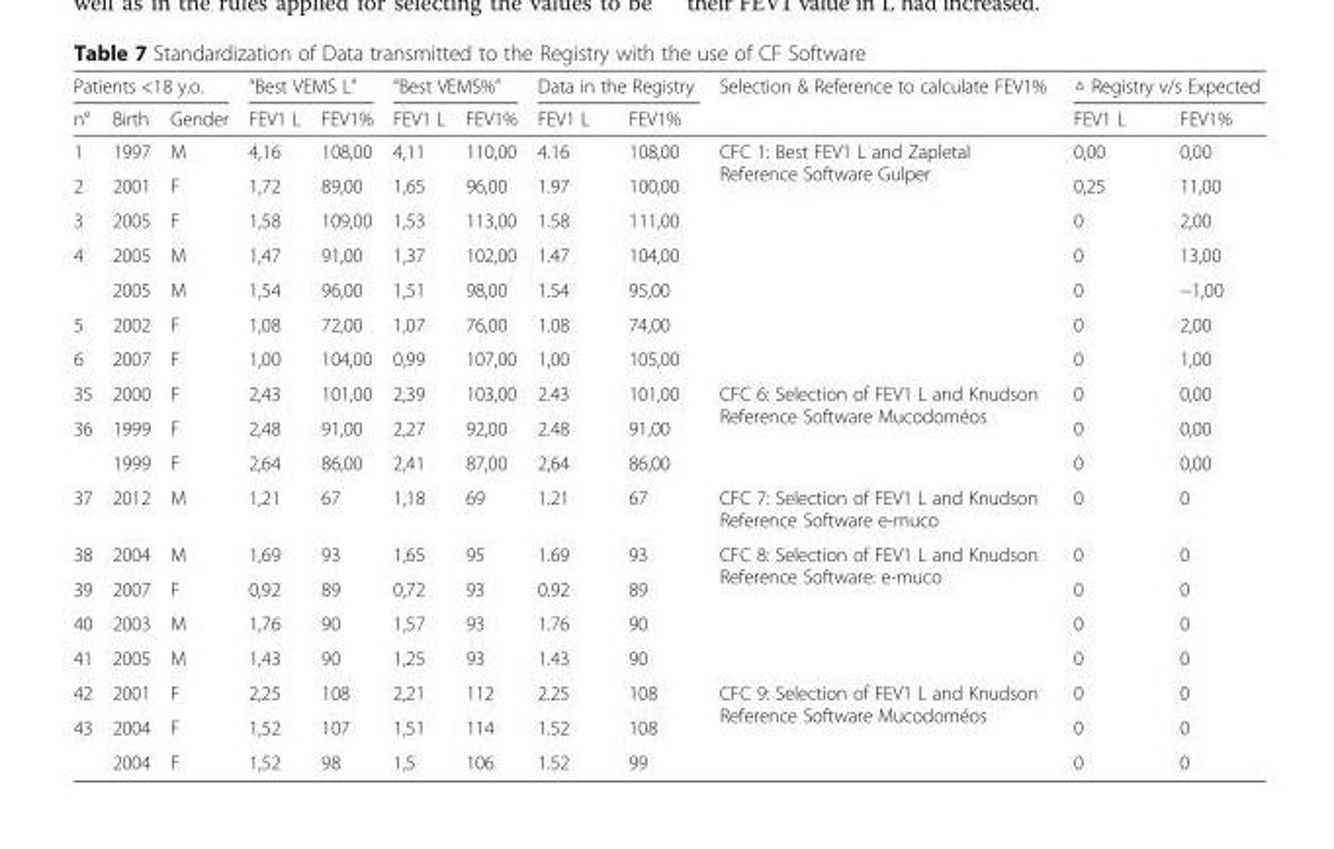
<table><thead><tr><td colspan="3">Patients &lt;18 y.o.</td><td colspan="2">“Best VEMS L”</td><td colspan="2">“Best VEMS%”</td><td colspan="2">Data in the Registry</td><td rowspan="2">Selection &amp; Reference to calculate FEV1%</td><td colspan="2">△ Registry v/s Expected</td></tr><tr><td>n°</td><td>Birth</td><td>Gender</td><td>FEV1 L</td><td>FEV1%</td><td>FEV1 L</td><td>FEV1%</td><td>FEV1 L</td><td>FEV1%</td><td>FEV1 L</td><td>FEV1%</td></tr></thead><tbody><tr><td>1</td><td>1997</td><td>M</td><td>4,16</td><td>108,00</td><td>4,11</td><td>110,00</td><td>4.16</td><td>108,00</td><td rowspan="7">CFC 1: Best FEV1 L and Zapletal Reference Software Gulper</td><td>0,00</td><td>0,00</td></tr><tr><td>2</td><td>2001</td><td>F</td><td>1,72</td><td>89,00</td><td>1,65</td><td>96,00</td><td>1.97</td><td>100,00</td><td>0,25</td><td>11,00</td></tr><tr><td>3</td><td>2005</td><td>F</td><td>1,58</td><td>109,00</td><td>1,53</td><td>113,00</td><td>1.58</td><td>111,00</td><td>0</td><td>2,00</td></tr><tr><td rowspan="2">4</td><td>2005</td><td>M</td><td>1,47</td><td>91,00</td><td>1,37</td><td>102,00</td><td>1.47</td><td>104,00</td><td>0</td><td>13,00</td></tr><tr><td>2005</td><td>M</td><td>1,54</td><td>96,00</td><td>1,51</td><td>98,00</td><td>1.54</td><td>95,00</td><td>0</td><td>−1,00</td></tr><tr><td>5</td><td>2002</td><td>F</td><td>1,08</td><td>72,00</td><td>1,07</td><td>76,00</td><td>1.08</td><td>74,00</td><td>0</td><td>2,00</td></tr><tr><td>6</td><td>2007</td><td>F</td><td>1,00</td><td>104,00</td><td>0,99</td><td>107,00</td><td>1,00</td><td>105,00</td><td>0</td><td>1,00</td></tr><tr><td>35</td><td>2000</td><td>F</td><td>2,43</td><td>101,00</td><td>2,39</td><td>103,00</td><td>2.43</td><td>101,00</td><td rowspan="3">CFC 6: Selection of FEV1 L and Knudson Reference Software Mucodoméos</td><td>0</td><td>0,00</td></tr><tr><td rowspan="2">36</td><td>1999</td><td>F</td><td>2,48</td><td>91,00</td><td>2,27</td><td>92,00</td><td>2.48</td><td>91,00</td><td>0</td><td>0,00</td></tr><tr><td>1999</td><td>F</td><td>2,64</td><td>86,00</td><td>2,41</td><td>87,00</td><td>2,64</td><td>86,00</td><td>0</td><td>0,00</td></tr><tr><td>37</td><td>2012</td><td>M</td><td>1,21</td><td>67</td><td>1,18</td><td>69</td><td>1.21</td><td>67</td><td>CFC 7: Selection of FEV1 L and Knudson Reference Software e-muco</td><td>0</td><td>0</td></tr><tr><td>38</td><td>2004</td><td>M</td><td>1,69</td><td>93</td><td>1,65</td><td>95</td><td>1.69</td><td>93</td><td rowspan="4">CFC 8: Selection of FEV1 L and Knudson Reference Software: e-muco</td><td>0</td><td>0</td></tr><tr><td>39</td><td>2007</td><td>F</td><td>0,92</td><td>89</td><td>0,72</td><td>93</td><td>0.92</td><td>89</td><td>0</td><td>0</td></tr><tr><td>40</td><td>2003</td><td>M</td><td>1,76</td><td>90</td><td>1,57</td><td>93</td><td>1.76</td><td>90</td><td>0</td><td>0</td></tr><tr><td>41</td><td>2005</td><td>M</td><td>1,43</td><td>90</td><td>1,25</td><td>93</td><td>1.43</td><td>90</td><td>0</td><td>0</td></tr><tr><td>42</td><td>2001</td><td>F</td><td>2,25</td><td>108</td><td>2,21</td><td>112</td><td>2.25</td><td>108</td><td rowspan="3">CFC 9: Selection of FEV1 L and Knudson Reference Software Mucodoméos</td><td>0</td><td>0</td></tr><tr><td rowspan="2">43</td><td>2004</td><td>F</td><td>1,52</td><td>107</td><td>1,51</td><td>114</td><td>1.52</td><td>108</td><td>0</td><td>0</td></tr><tr><td>2004</td><td>F</td><td>1,52</td><td>98</td><td>1,5</td><td>106</td><td>1.52</td><td>99</td><td>0</td><td>0</td></tr></tbody></table>